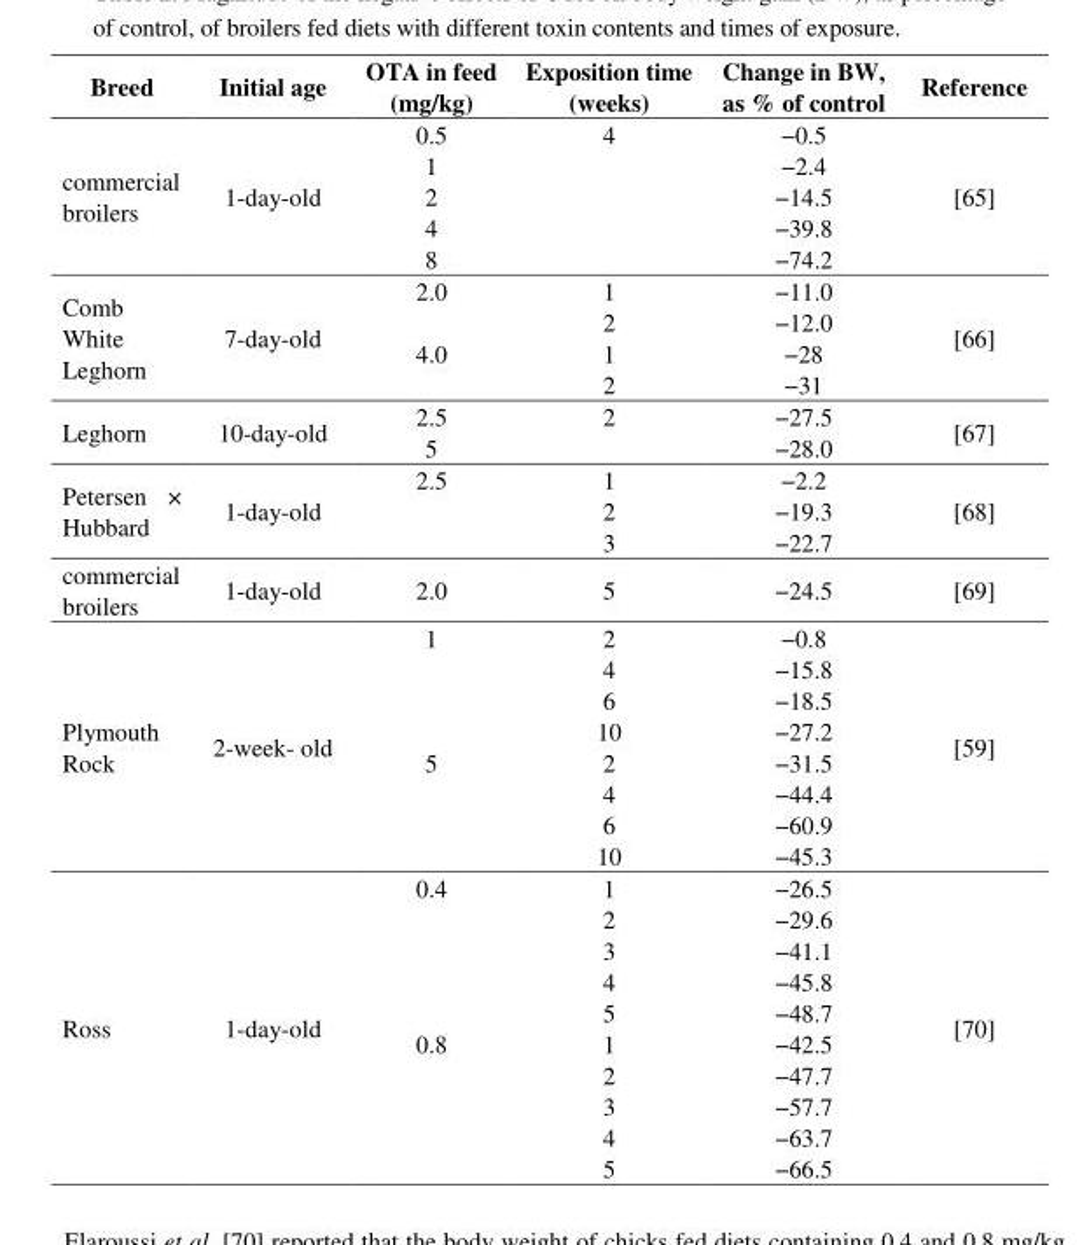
<table><thead><tr><td>Breed</td><td>Initial age</td><td>OTA in feed (mg/kg)</td><td>Exposition time (weeks)</td><td>Change in BW, as % of control</td><td>Reference</td></tr></thead><tbody><tr><td rowspan="5">commercial broilers</td><td rowspan="5">1-day-old</td><td>0.5</td><td>4</td><td>−0.5</td><td rowspan="5">[65]</td></tr><tr><td>1</td><td></td><td>−2.4</td></tr><tr><td>2</td><td></td><td>−14.5</td></tr><tr><td>4</td><td></td><td>−39.8</td></tr><tr><td>8</td><td></td><td>−74.2</td></tr><tr><td rowspan="4">Comb White Leghorn</td><td rowspan="4">7-day-old</td><td>2.0</td><td>1</td><td>−11.0</td><td rowspan="4">[66]</td></tr><tr><td></td><td>2</td><td>−12.0</td></tr><tr><td>4.0</td><td>1</td><td>−28</td></tr><tr><td></td><td>2</td><td>−31</td></tr><tr><td rowspan="2">Leghorn</td><td rowspan="2">10-day-old</td><td>2.5</td><td>2</td><td>−27.5</td><td rowspan="2">[67]</td></tr><tr><td>5</td><td></td><td>−28.0</td></tr><tr><td rowspan="3">Petersen × Hubbard</td><td rowspan="3">1-day-old</td><td>2.5</td><td>1</td><td>−2.2</td><td rowspan="3">[68]</td></tr><tr><td></td><td>2</td><td>−19.3</td></tr><tr><td></td><td>3</td><td>−22.7</td></tr><tr><td>commercial broilers</td><td>1-day-old</td><td>2.0</td><td>5</td><td>−24.5</td><td>[69]</td></tr><tr><td rowspan="8">Plymouth Rock</td><td rowspan="8">2-week- old</td><td>1</td><td>2</td><td>−0.8</td><td rowspan="8">[59]</td></tr><tr><td></td><td>4</td><td>−15.8</td></tr><tr><td></td><td>6</td><td>−18.5</td></tr><tr><td></td><td>10</td><td>−27.2</td></tr><tr><td>5</td><td>2</td><td>−31.5</td></tr><tr><td></td><td>4</td><td>−44.4</td></tr><tr><td></td><td>6</td><td>−60.9</td></tr><tr><td></td><td>10</td><td>−45.3</td></tr><tr><td rowspan="10">Ross</td><td rowspan="10">1-day-old</td><td>0.4</td><td>1</td><td>−26.5</td><td rowspan="10">[70]</td></tr><tr><td></td><td>2</td><td>−29.6</td></tr><tr><td></td><td>3</td><td>−41.1</td></tr><tr><td></td><td>4</td><td>−45.8</td></tr><tr><td></td><td>5</td><td>−48.7</td></tr><tr><td>0.8</td><td>1</td><td>−42.5</td></tr><tr><td></td><td>2</td><td>−47.7</td></tr><tr><td></td><td>3</td><td>−57.7</td></tr><tr><td></td><td>4</td><td>−63.7</td></tr><tr><td></td><td>5</td><td>−66.5</td></tr></tbody></table>